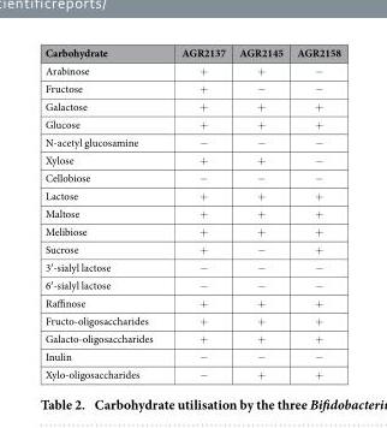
<table><thead><tr><td>Carbohydrate</td><td>AGR2137</td><td>AGR2145</td><td>AGR2158</td></tr></thead><tbody><tr><td>Arabinose</td><td>+</td><td>+</td><td>−</td></tr><tr><td>Fructose</td><td>+</td><td>−</td><td>−</td></tr><tr><td>Galactose</td><td>+</td><td>+</td><td>+</td></tr><tr><td>Glucose</td><td>+</td><td>+</td><td>+</td></tr><tr><td>N-acetyl glucosamine</td><td>−</td><td>−</td><td>−</td></tr><tr><td>Xylose</td><td>+</td><td>+</td><td>−</td></tr><tr><td>Cellobiose</td><td>−</td><td>−</td><td>−</td></tr><tr><td>Lactose</td><td>+</td><td>+</td><td>+</td></tr><tr><td>Maltose</td><td>+</td><td>+</td><td>+</td></tr><tr><td>Melibiose</td><td>+</td><td>+</td><td>+</td></tr><tr><td>Sucrose</td><td>+</td><td>−</td><td>+</td></tr><tr><td>3′ -sialyl lactose</td><td>−</td><td>−</td><td>−</td></tr><tr><td>6′ -sialyl lactose</td><td>−</td><td>−</td><td>−</td></tr><tr><td>Raffinose</td><td>+</td><td>+</td><td>+</td></tr><tr><td>Fructo-oligosaccharides</td><td>+</td><td>+</td><td>+</td></tr><tr><td>Galacto-oligosaccharides</td><td>+</td><td>+</td><td>+</td></tr><tr><td>Inulin</td><td>−</td><td>−</td><td>−</td></tr><tr><td>Xylo-oligosaccharides</td><td>−</td><td>+</td><td>+</td></tr></tbody></table>